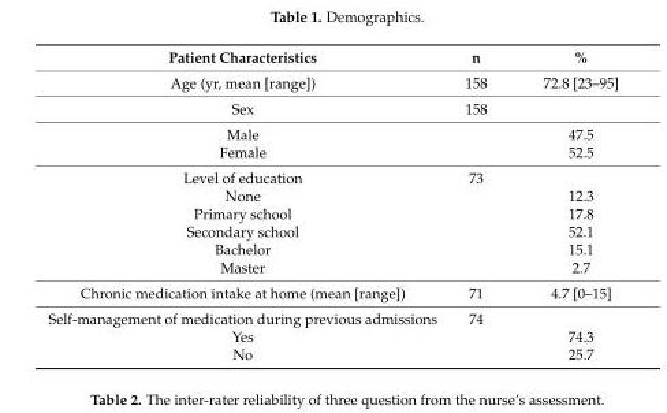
<table><thead><tr><td>Patient Characteristics</td><td>n</td><td>%</td></tr></thead><tbody><tr><td>Age (yr, mean [range])</td><td>158</td><td>72.8 [23–95]</td></tr><tr><td>Sex</td><td>158</td><td></td></tr><tr><td>Male</td><td></td><td>47.5</td></tr><tr><td>Female</td><td></td><td>52.5</td></tr><tr><td>Level of education</td><td>73</td><td></td></tr><tr><td>None</td><td></td><td>12.3</td></tr><tr><td>Primary school</td><td></td><td>17.8</td></tr><tr><td>Secondary school</td><td></td><td>52.1</td></tr><tr><td>Bachelor</td><td></td><td>15.1</td></tr><tr><td>Master</td><td></td><td>2.7</td></tr><tr><td>Chronic medication intake at home (mean [range])</td><td>71</td><td>4.7 [0–15]</td></tr><tr><td>Self-management of medication during previous admissions</td><td>74</td><td></td></tr><tr><td>Yes</td><td></td><td>74.3</td></tr><tr><td>No</td><td></td><td>25.7</td></tr></tbody></table>